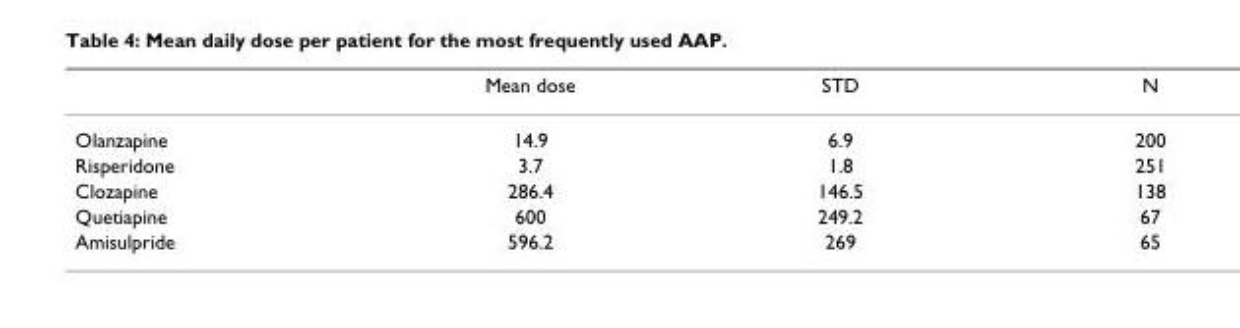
<table><thead><tr><td></td><td>Mean dose</td><td>STD</td><td>N</td></tr></thead><tbody><tr><td>Olanzapine</td><td>14.9</td><td>6.9</td><td>200</td></tr><tr><td>Risperidone</td><td>3.7</td><td>1.8</td><td>251</td></tr><tr><td>Clozapine</td><td>286.4</td><td>146.5</td><td>138</td></tr><tr><td>Quetiapine</td><td>600</td><td>249.2</td><td>67</td></tr><tr><td>Amisulpride</td><td>596.2</td><td>269</td><td>65</td></tr></tbody></table>